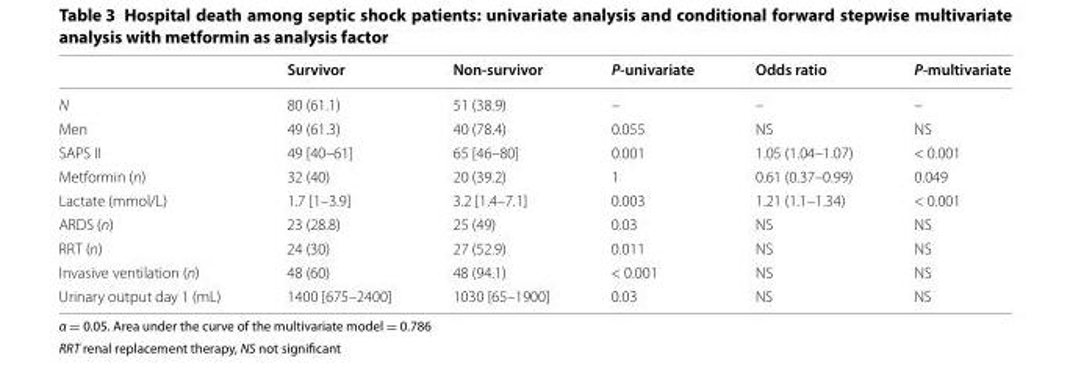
<table><thead><tr><td></td><td>Survivor</td><td>Non-survivor</td><td>P-univariate</td><td>Odds ratio</td><td>P-multivariate</td></tr></thead><tbody><tr><td>N</td><td>80 (61.1)</td><td>51 (38.9)</td><td>–</td><td>–</td><td>–</td></tr><tr><td>Men</td><td>49 (61.3)</td><td>40 (78.4)</td><td>0.055</td><td>NS</td><td>NS</td></tr><tr><td>SAPS II</td><td>49 [40–61]</td><td>65 [46–80]</td><td>0.001</td><td>1.05 (1.04–1.07)</td><td>&lt; 0.001</td></tr><tr><td>Metformin (n)</td><td>32 (40)</td><td>20 (39.2)</td><td>1</td><td>0.61 (0.37–0.99)</td><td>0.049</td></tr><tr><td>Lactate (mmol/L)</td><td>1.7 [1–3.9]</td><td>3.2 [1.4–7.1]</td><td>0.003</td><td>1.21 (1.1–1.34)</td><td>&lt; 0.001</td></tr><tr><td>ARDS (n)</td><td>23 (28.8)</td><td>25 (49)</td><td>0.03</td><td>NS</td><td>NS</td></tr><tr><td>RRT (n)</td><td>24 (30)</td><td>27 (52.9)</td><td>0.011</td><td>NS</td><td>NS</td></tr><tr><td>Invasive ventilation (n)</td><td>48 (60)</td><td>48 (94.1)</td><td>&lt; 0.001</td><td>NS</td><td>NS</td></tr><tr><td>Urinary output day 1 (mL)</td><td>1400 [675–2400]</td><td>1030 [65–1900]</td><td>0.03</td><td>NS</td><td>NS</td></tr></tbody></table>